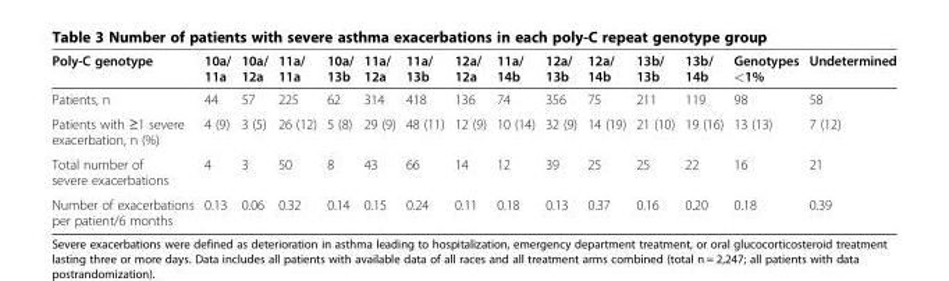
<table><thead><tr><td>Poly-C genotype</td><td>10a/ 11a</td><td>10a/ 12a</td><td>11a/ 11a</td><td>10a/ 13b</td><td>11a/ 12a</td><td>11a/ 13b</td><td>12a/ 12a</td><td>11a/ 14b</td><td>12a/ 13b</td><td>12a/ 14b</td><td>13b/ 13b</td><td>13b/ 14b</td><td>Genotypes &lt;1%</td><td>Undetermined</td></tr></thead><tbody><tr><td>Patients, n</td><td>44</td><td>57</td><td>225</td><td>62</td><td>314</td><td>418</td><td>136</td><td>74</td><td>356</td><td>75</td><td>211</td><td>119</td><td>98</td><td>58</td></tr><tr><td>Patients with ≥1 severe exacerbation, n (%)</td><td>4 (9)</td><td>3 (5)</td><td>26 (12)</td><td>5 (8)</td><td>29 (9)</td><td>48 (11)</td><td>12 (9)</td><td>10 (14)</td><td>32 (9)</td><td>14 (19)</td><td>21 (10)</td><td>19 (16)</td><td>13 (13)</td><td>7 (12)</td></tr><tr><td>Total number of severe exacerbations</td><td>4</td><td>3</td><td>50</td><td>8</td><td>43</td><td>66</td><td>14</td><td>12</td><td>39</td><td>25</td><td>25</td><td>22</td><td>16</td><td>21</td></tr><tr><td>Number of exacerbations per patient/6 months</td><td>0.13</td><td>0.06</td><td>0.32</td><td>0.14</td><td>0.15</td><td>0.24</td><td>0.11</td><td>0.18</td><td>0.13</td><td>0.37</td><td>0.16</td><td>0.20</td><td>0.18</td><td>0.39</td></tr></tbody></table>